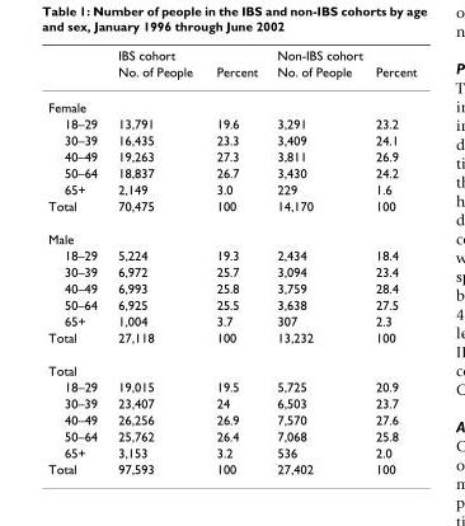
<table><thead><tr><td rowspan="2"></td><td colspan="2">IBS cohort</td><td colspan="2">Non-IBS cohort</td></tr><tr><td>No. of People</td><td>Percent</td><td>No. of People</td><td>Percent</td></tr></thead><tbody><tr><td colspan="5">Female</td></tr><tr><td>18–29</td><td>13,791</td><td>19.6</td><td>3,291</td><td>23.2</td></tr><tr><td>30–39</td><td>16,435</td><td>23.3</td><td>3,409</td><td>24.1</td></tr><tr><td>40–49</td><td>19,263</td><td>27.3</td><td>3,811</td><td>26.9</td></tr><tr><td>50–64</td><td>18,837</td><td>26.7</td><td>3,430</td><td>24.2</td></tr><tr><td>65+</td><td>2,149</td><td>3.0</td><td>229</td><td>1.6</td></tr><tr><td>Total</td><td>70,475</td><td>100</td><td>14,170</td><td>100</td></tr><tr><td colspan="5">Male</td></tr><tr><td>18–29</td><td>5,224</td><td>19.3</td><td>2,434</td><td>18.4</td></tr><tr><td>30–39</td><td>6,972</td><td>25.7</td><td>3,094</td><td>23.4</td></tr><tr><td>40–49</td><td>6,993</td><td>25.8</td><td>3,759</td><td>28.4</td></tr><tr><td>50–64</td><td>6,925</td><td>25.5</td><td>3,638</td><td>27.5</td></tr><tr><td>65+</td><td>1,004</td><td>3.7</td><td>307</td><td>2.3</td></tr><tr><td>Total</td><td>27,118</td><td>100</td><td>13,232</td><td>100</td></tr><tr><td colspan="5">Total</td></tr><tr><td>18–29</td><td>19,015</td><td>19.5</td><td>5,725</td><td>20.9</td></tr><tr><td>30–39</td><td>23,407</td><td>24</td><td>6,503</td><td>23.7</td></tr><tr><td>40–49</td><td>26,256</td><td>26.9</td><td>7,570</td><td>27.6</td></tr><tr><td>50–64</td><td>25,762</td><td>26.4</td><td>7,068</td><td>25.8</td></tr><tr><td>65+</td><td>3,153</td><td>3.2</td><td>536</td><td>2.0</td></tr><tr><td>Total</td><td>97,593</td><td>100</td><td>27,402</td><td>100</td></tr></tbody></table>